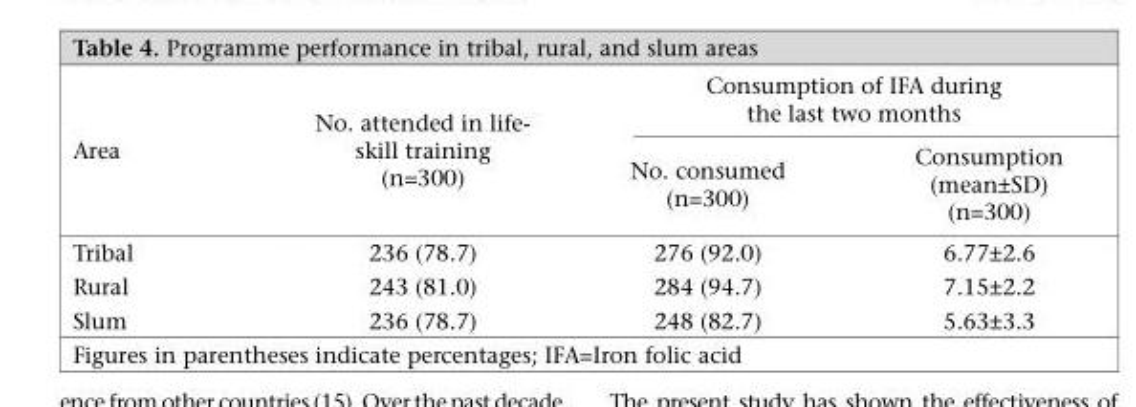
<table><thead><tr><td rowspan="2">Area</td><td rowspan="2">No. attended in life- skill training (n=300)</td><td colspan="2">Consumption of IFA during the last two months</td></tr><tr><td>No. consumed (n=300)</td><td>Consumption (mean±SD) (n=300)</td></tr></thead><tbody><tr><td>Tribal</td><td>236 (78.7)</td><td>276 (92.0)</td><td>6.77±2.6</td></tr><tr><td>Rural</td><td>243 (81.0)</td><td>284 (94.7)</td><td>7.15±2.2</td></tr><tr><td>Slum</td><td>236 (78.7)</td><td>248 (82.7)</td><td>5.63±3.3</td></tr></tbody></table>